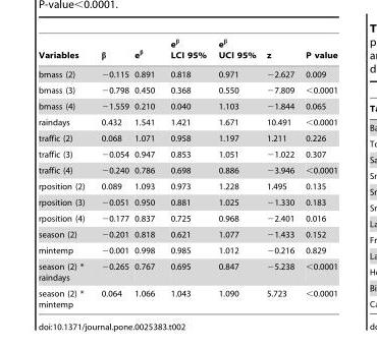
<table><thead><tr><td>Variables</td><td>β</td><td>e<sup>β</sup></td><td>e<sup>β</sup> LCI 95%</td><td>e<sup>β</sup> UCI 95%</td><td>z</td><td>P value</td></tr></thead><tbody><tr><td>bmass (2)</td><td>−0.115</td><td>0.891</td><td>0.818</td><td>0.971</td><td>−2.627</td><td>0.009</td></tr><tr><td>bmass (3)</td><td>−0.798</td><td>0.450</td><td>0.368</td><td>0.550</td><td>−7.809</td><td>&lt;0.0001</td></tr><tr><td>bmass (4)</td><td>−1.559</td><td>0.210</td><td>0.040</td><td>1.103</td><td>−1.844</td><td>0.065</td></tr><tr><td>raindays</td><td>0.432</td><td>1.541</td><td>1.421</td><td>1.671</td><td>10.491</td><td>&lt;0.0001</td></tr><tr><td>traffic (2)</td><td>0.068</td><td>1.071</td><td>0.958</td><td>1.197</td><td>1.211</td><td>0.226</td></tr><tr><td>traffic (3)</td><td>−0.054</td><td>0.947</td><td>0.853</td><td>1.051</td><td>−1.022</td><td>0.307</td></tr><tr><td>traffic (4)</td><td>−0.240</td><td>0.786</td><td>0.698</td><td>0.886</td><td>−3.946</td><td>&lt;0.0001</td></tr><tr><td>rposition (2)</td><td>0.089</td><td>1.093</td><td>0.973</td><td>1.228</td><td>1.495</td><td>0.135</td></tr><tr><td>rposition (3)</td><td>−0.051</td><td>0.950</td><td>0.881</td><td>1.025</td><td>−1.330</td><td>0.183</td></tr><tr><td>rposition (4)</td><td>−0.177</td><td>0.837</td><td>0.725</td><td>0.968</td><td>−2.401</td><td>0.016</td></tr><tr><td>season (2)</td><td>−0.201</td><td>0.818</td><td>0.621</td><td>1.077</td><td>−1.433</td><td>0.152</td></tr><tr><td>mintemp</td><td>−0.001</td><td>0.998</td><td>0.985</td><td>1.012</td><td>−0.216</td><td>0.829</td></tr><tr><td>season (2) * raindays</td><td>−0.265</td><td>0.767</td><td>0.695</td><td>0.847</td><td>−5.238</td><td>&lt;0.0001</td></tr><tr><td>season (2) * mintemp</td><td>0.064</td><td>1.066</td><td>1.043</td><td>1.090</td><td>5.723</td><td>&lt;0.0001</td></tr></tbody></table>